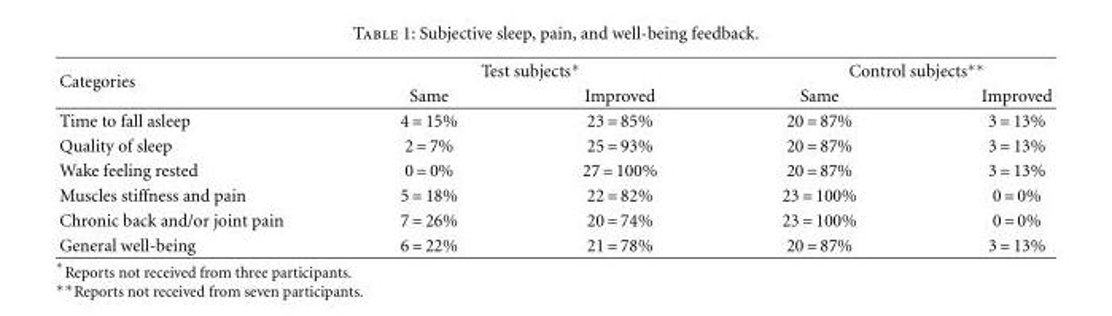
<table><thead><tr><td rowspan="2">Categories</td><td colspan="2">Test subjects∗</td><td colspan="2">Control subjects∗∗</td></tr><tr><td>Same</td><td>Improved</td><td>Same</td><td>Improved</td></tr></thead><tbody><tr><td>Time to fall asleep</td><td>4 = 15%</td><td>23 = 85%</td><td>20 = 87%</td><td>3 = 13%</td></tr><tr><td>Quality of sleep</td><td>2 = 7%</td><td>25 = 93%</td><td>20 = 87%</td><td>3 = 13%</td></tr><tr><td>Wake feeling rested</td><td>0 = 0%</td><td>27 = 100%</td><td>20 = 87%</td><td>3 = 13%</td></tr><tr><td>Muscles stiffness and pain</td><td>5 = 18%</td><td>22 = 82%</td><td>23 = 100%</td><td>0 = 0%</td></tr><tr><td>Chronic back and/or joint pain</td><td>7 = 26%</td><td>20 = 74%</td><td>23 = 100%</td><td>0 = 0%</td></tr><tr><td>General well-being</td><td>6 = 22%</td><td>21 = 78%</td><td>20 = 87%</td><td>3 = 13%</td></tr></tbody></table>